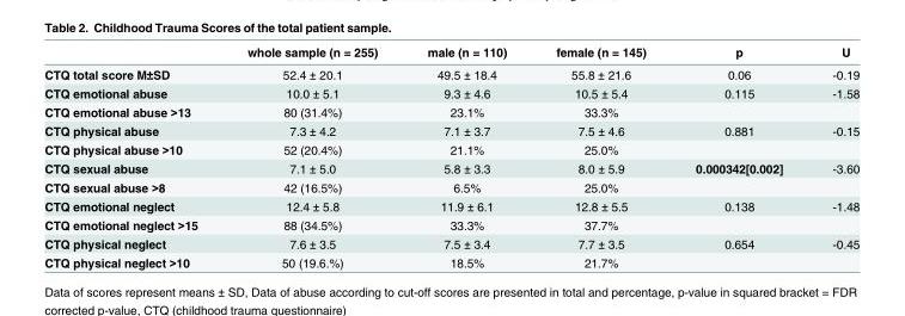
<table><thead><tr><td></td><td>whole sample (n = 255)</td><td>male (n = 110)</td><td>female (n = 145)</td><td>p</td><td>U</td></tr></thead><tbody><tr><td>CTQ total score M±SD</td><td>52.4 ± 20.1</td><td>49.5 ± 18.4</td><td>55.8 ± 21.6</td><td>0.06</td><td>-0.19</td></tr><tr><td>CTQ emotional abuse</td><td>10.0 ± 5.1</td><td>9.3 ± 4.6</td><td>10.5 ± 5.4</td><td>0.115</td><td>-1.58</td></tr><tr><td>CTQ emotional abuse &gt;13</td><td>80 (31.4%)</td><td>23.1%</td><td>33.3%</td><td></td><td></td></tr><tr><td>CTQ physical abuse</td><td>7.3 ± 4.2</td><td>7.1 ± 3.7</td><td>7.5 ± 4.6</td><td>0.881</td><td>-0.15</td></tr><tr><td>CTQ physical abuse &gt;10</td><td>52 (20.4%)</td><td>21.1%</td><td>25.0%</td><td></td><td></td></tr><tr><td>CTQ sexual abuse</td><td>7.1 ± 5.0</td><td>5.8 ± 3.3</td><td>8.0 ± 5.9</td><td>0.000342[0.002]</td><td>-3.60</td></tr><tr><td>CTQ sexual abuse &gt;8</td><td>42 (16.5%)</td><td>6.5%</td><td>25.0%</td><td></td><td></td></tr><tr><td>CTQ emotional neglect</td><td>12.4 ± 5.8</td><td>11.9 ± 6.1</td><td>12.8 ± 5.5</td><td>0.138</td><td>-1.48</td></tr><tr><td>CTQ emotional neglect &gt;15</td><td>88 (34.5%)</td><td>33.3%</td><td>37.7%</td><td></td><td></td></tr><tr><td>CTQ physical neglect</td><td>7.6 ± 3.5</td><td>7.5 ± 3.4</td><td>7.7 ± 3.5</td><td>0.654</td><td>-0.45</td></tr><tr><td>CTQ physical neglect &gt;10</td><td>50 (19.6.%)</td><td>18.5%</td><td>21.7%</td><td></td><td></td></tr></tbody></table>